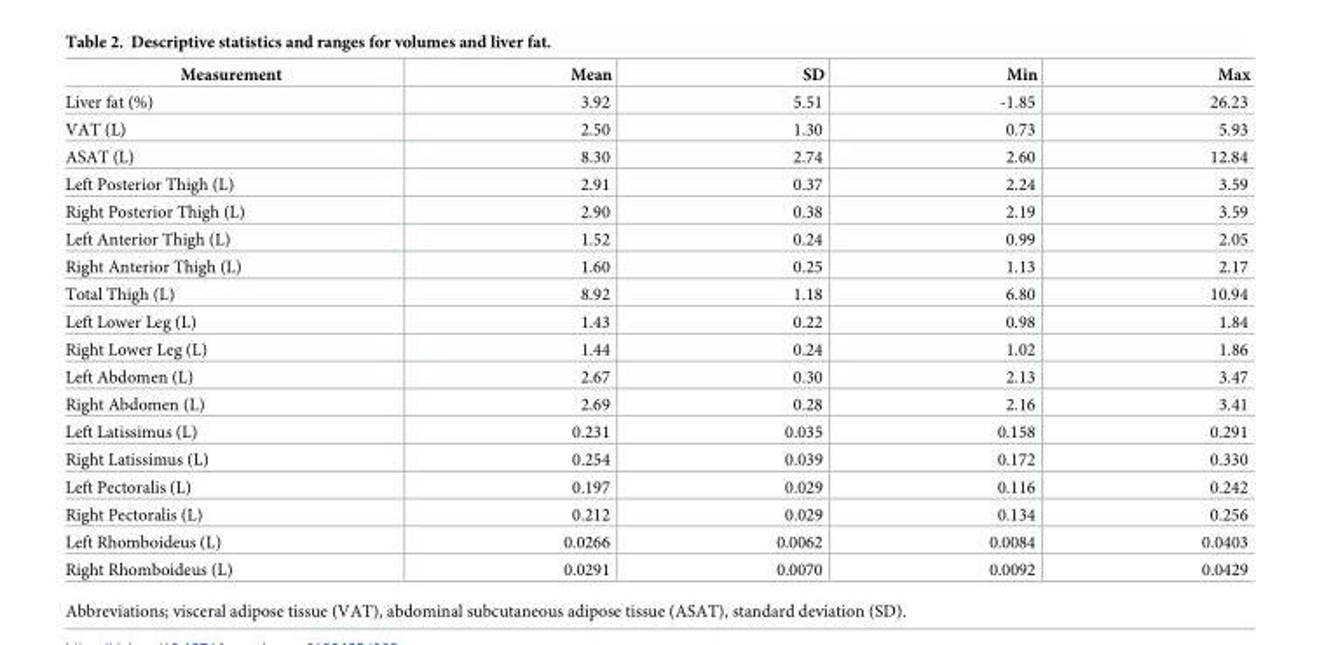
<table><thead><tr><td>Measurement</td><td>Mean</td><td>SD</td><td>Min</td><td>Max</td></tr></thead><tbody><tr><td>Liver fat (%)</td><td>3.92</td><td>5.51</td><td>-1.85</td><td>26.23</td></tr><tr><td>VAT (L)</td><td>2.50</td><td>1.30</td><td>0.73</td><td>5.93</td></tr><tr><td>ASAT (L)</td><td>8.30</td><td>2.74</td><td>2.60</td><td>12.84</td></tr><tr><td>Left Posterior Thigh (L)</td><td>2.91</td><td>0.37</td><td>2.24</td><td>3.59</td></tr><tr><td>Right Posterior Thigh (L)</td><td>2.90</td><td>0.38</td><td>2.19</td><td>3.59</td></tr><tr><td>Left Anterior Thigh (L)</td><td>1.52</td><td>0.24</td><td>0.99</td><td>2.05</td></tr><tr><td>Right Anterior Thigh (L)</td><td>1.60</td><td>0.25</td><td>1.13</td><td>2.17</td></tr><tr><td>Total Thigh (L)</td><td>8.92</td><td>1.18</td><td>6.80</td><td>10.94</td></tr><tr><td>Left Lower Leg (L)</td><td>1.43</td><td>0.22</td><td>0.98</td><td>1.84</td></tr><tr><td>Right Lower Leg (L)</td><td>1.44</td><td>0.24</td><td>1.02</td><td>1.86</td></tr><tr><td>Left Abdomen (L)</td><td>2.67</td><td>0.30</td><td>2.13</td><td>3.47</td></tr><tr><td>Right Abdomen (L)</td><td>2.69</td><td>0.28</td><td>2.16</td><td>3.41</td></tr><tr><td>Left Latissimus (L)</td><td>0.231</td><td>0.035</td><td>0.158</td><td>0.291</td></tr><tr><td>Right Latissimus (L)</td><td>0.254</td><td>0.039</td><td>0.172</td><td>0.330</td></tr><tr><td>Left Pectoralis (L)</td><td>0.197</td><td>0.029</td><td>0.116</td><td>0.242</td></tr><tr><td>Right Pectoralis (L)</td><td>0.212</td><td>0.029</td><td>0.134</td><td>0.256</td></tr><tr><td>Left Rhomboideus (L)</td><td>0.0266</td><td>0.0062</td><td>0.0084</td><td>0.0403</td></tr><tr><td>Right Rhomboideus (L)</td><td>0.0291</td><td>0.0070</td><td>0.0092</td><td>0.0429</td></tr></tbody></table>